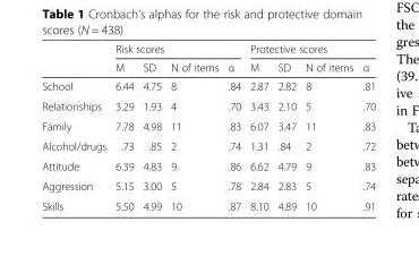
<table><thead><tr><td rowspan="2"></td><td colspan="4">Risk scores</td><td colspan="4">Protective scores</td></tr><tr><td>M</td><td>SD</td><td>N of items</td><td>α</td><td>M</td><td>SD</td><td>N of items</td><td>α</td></tr></thead><tbody><tr><td>School</td><td>6.44</td><td>4.75</td><td>8</td><td>.84</td><td>2.87</td><td>2.82</td><td>8</td><td>.81</td></tr><tr><td>Relationships</td><td>3.29</td><td>1.93</td><td>4</td><td>.70</td><td>3.43</td><td>2.10</td><td>5</td><td>.70</td></tr><tr><td>Family</td><td>7.78</td><td>4.98</td><td>11</td><td>.83</td><td>6.07</td><td>3.47</td><td>11</td><td>.83</td></tr><tr><td>Alcohol/drugs</td><td>.73</td><td>.85</td><td>2</td><td>.74</td><td>1.31</td><td>.84</td><td>2</td><td>.72</td></tr><tr><td>Attitude</td><td>6.39</td><td>4.83</td><td>9</td><td>.86</td><td>6.62</td><td>4.79</td><td>9</td><td>.83</td></tr><tr><td>Aggression</td><td>5.15</td><td>3.00</td><td>5</td><td>.78</td><td>2.84</td><td>2.83</td><td>5</td><td>.74</td></tr><tr><td>Skills</td><td>5.50</td><td>4.99</td><td>10</td><td>.87</td><td>8.10</td><td>4.89</td><td>10</td><td>.91</td></tr></tbody></table>